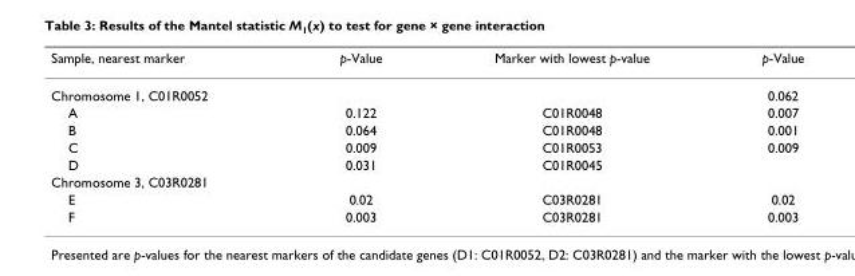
<table><thead><tr><td>Sample, nearest marker</td><td>p-Value</td><td>Marker with lowest p-value</td><td>p-Value</td></tr></thead><tbody><tr><td>Chromosome 1, C01R0052</td><td></td><td></td><td>0.062</td></tr><tr><td>A</td><td>0.122</td><td>C01R0048</td><td>0.007</td></tr><tr><td>B</td><td>0.064</td><td>C01R0048</td><td>0.001</td></tr><tr><td>C</td><td>0.009</td><td>C01R0053</td><td>0.009</td></tr><tr><td>D</td><td>0.031</td><td>C01R0045</td><td></td></tr><tr><td colspan="4">Chromosome 3, C03R0281</td></tr><tr><td>E</td><td>0.02</td><td>C03R0281</td><td>0.02</td></tr><tr><td>F</td><td>0.003</td><td>C03R0281</td><td>0.003</td></tr></tbody></table>